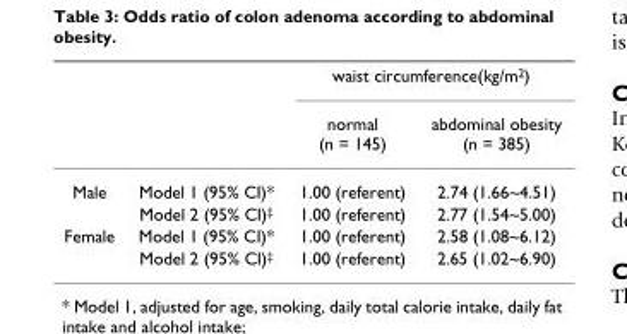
<table><thead><tr><td rowspan="2"></td><td rowspan="2"></td><td colspan="2">waist circumference(kg/m<sup>2</sup>)</td></tr><tr><td>normal (n = 145)</td><td>abdominal obesity (n = 385)</td></tr></thead><tbody><tr><td rowspan="2">Male</td><td>Model 1 (95% CI)*</td><td>1.00 (referent)</td><td>2.74 (1.66~4.51)</td></tr><tr><td>Model 2 (95% CI)<sup>‡</sup></td><td>1.00 (referent)</td><td>2.77 (1.54~5.00)</td></tr><tr><td rowspan="2">Female</td><td>Model 1 (95% CI)*</td><td>1.00 (referent)</td><td>2.58 (1.08~6.12)</td></tr><tr><td>Model 2 (95% CI)<sup>‡</sup></td><td>1.00 (referent)</td><td>2.65 (1.02~6.90)</td></tr></tbody></table>